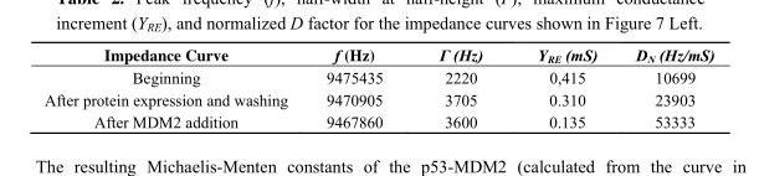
<table><thead><tr><td>Impedance Curve</td><td>f (Hz)</td><td>Γ (Hz)</td><td>Y<sub>RE</sub> (mS)</td><td>D<sub>N</sub> (Hz/mS)</td></tr></thead><tbody><tr><td>Beginning</td><td>9475435</td><td>2220</td><td>0,415</td><td>10699</td></tr><tr><td>After protein expression and washing</td><td>9470905</td><td>3705</td><td>0.310</td><td>23903</td></tr><tr><td>After MDM2 addition</td><td>9467860</td><td>3600</td><td>0.135</td><td>53333</td></tr></tbody></table>